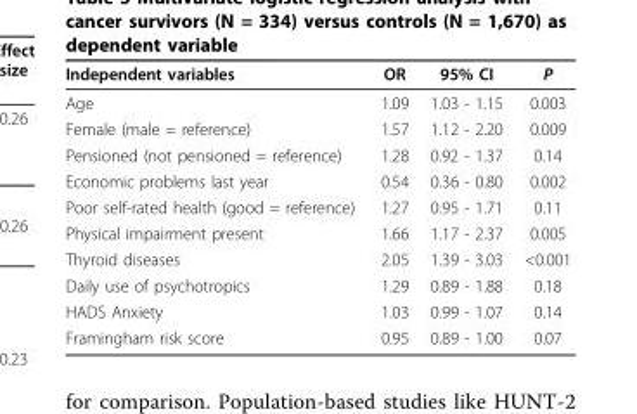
<table><thead><tr><td>Independent variables</td><td>OR</td><td>95% CI</td><td>P</td></tr></thead><tbody><tr><td>Age</td><td>1.09</td><td>1.03 - 1.15</td><td>0.003</td></tr><tr><td>Female (male = reference)</td><td>1.57</td><td>1.12 - 2.20</td><td>0.009</td></tr><tr><td>Pensioned (not pensioned = reference)</td><td>1.28</td><td>0.92 - 1.37</td><td>0.14</td></tr><tr><td>Economic problems last year</td><td>0.54</td><td>0.36 - 0.80</td><td>0.002</td></tr><tr><td>Poor self-rated health (good = reference)</td><td>1.27</td><td>0.95 - 1.71</td><td>0.11</td></tr><tr><td>Physical impairment present</td><td>1.66</td><td>1.17 - 2.37</td><td>0.005</td></tr><tr><td>Thyroid diseases</td><td>2.05</td><td>1.39 - 3.03</td><td>&lt;0.001</td></tr><tr><td>Daily use of psychotropics</td><td>1.29</td><td>0.89 - 1.88</td><td>0.18</td></tr><tr><td>HADS Anxiety</td><td>1.03</td><td>0.99 - 1.07</td><td>0.14</td></tr><tr><td>Framingham risk score</td><td>0.95</td><td>0.89 - 1.00</td><td>0.07</td></tr></tbody></table>